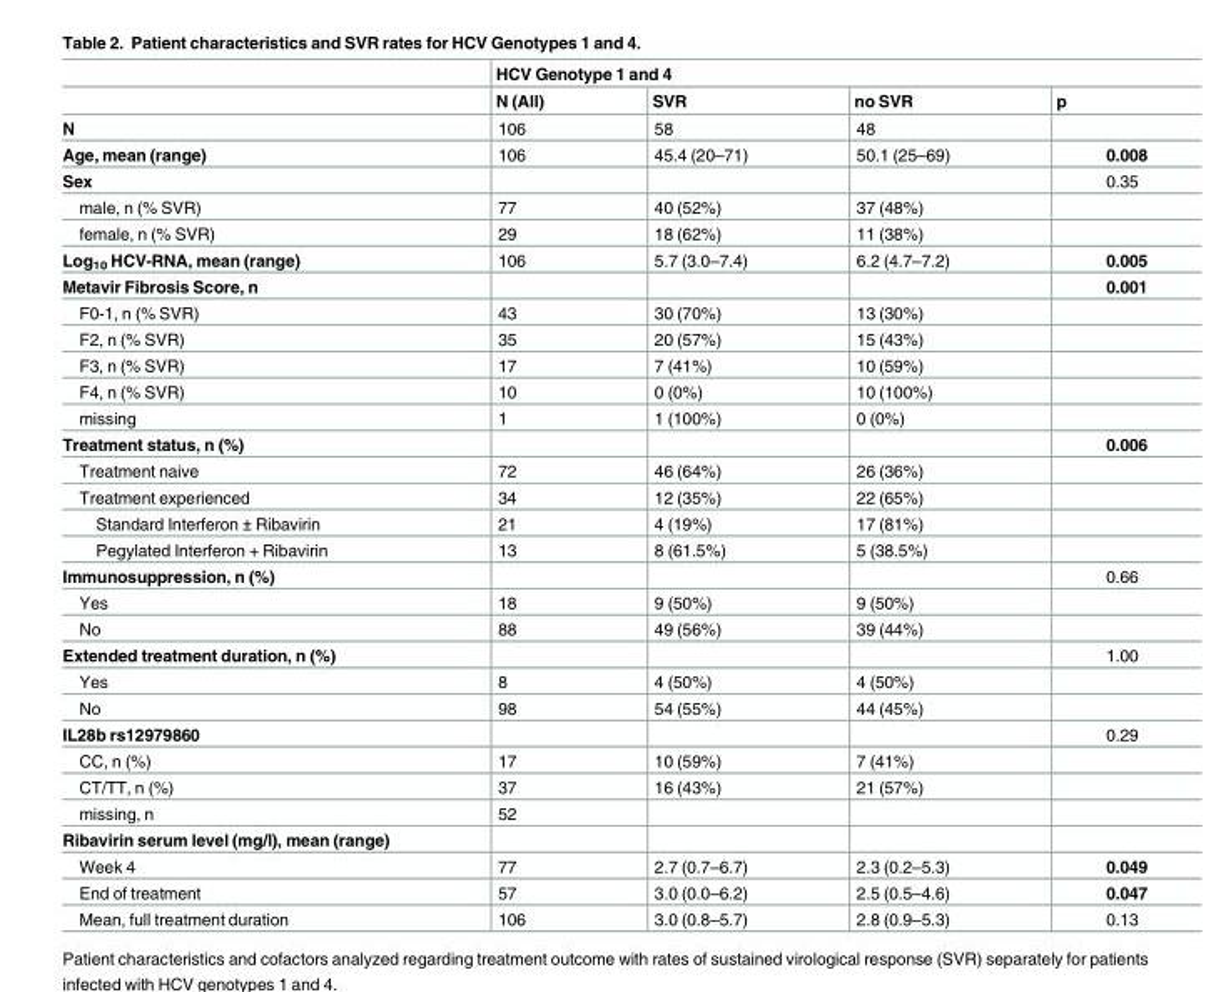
<table><thead><tr><td rowspan="2"></td><td colspan="4">HCV Genotype 1 and 4</td></tr><tr><td>N (All)</td><td>SVR</td><td>no SVR</td><td>p</td></tr></thead><tbody><tr><td>N</td><td>106</td><td>58</td><td>48</td><td></td></tr><tr><td>Age, mean (range)</td><td>106</td><td>45.4 (20–71)</td><td>50.1 (25–69)</td><td>0.008</td></tr><tr><td>Sex</td><td></td><td></td><td></td><td>0.35</td></tr><tr><td>male, n (% SVR)</td><td>77</td><td>40 (52%)</td><td>37 (48%)</td><td></td></tr><tr><td>female, n (% SVR)</td><td>29</td><td>18 (62%)</td><td>11 (38%)</td><td></td></tr><tr><td>Log<sub>10</sub> HCV-RNA, mean (range)</td><td>106</td><td>5.7 (3.0–7.4)</td><td>6.2 (4.7–7.2)</td><td>0.005</td></tr><tr><td>Metavir Fibrosis Score, n</td><td></td><td></td><td></td><td>0.001</td></tr><tr><td>F0-1, n (% SVR)</td><td>43</td><td>30 (70%)</td><td>13 (30%)</td><td></td></tr><tr><td>F2, n (% SVR)</td><td>35</td><td>20 (57%)</td><td>15 (43%)</td><td></td></tr><tr><td>F3, n (% SVR)</td><td>17</td><td>7 (41%)</td><td>10 (59%)</td><td></td></tr><tr><td>F4, n (% SVR)</td><td>10</td><td>0 (0%)</td><td>10 (100%)</td><td></td></tr><tr><td>missing</td><td>1</td><td>1 (100%)</td><td>0 (0%)</td><td></td></tr><tr><td>Treatment status, n (%)</td><td></td><td></td><td></td><td>0.006</td></tr><tr><td>Treatment naive</td><td>72</td><td>46 (64%)</td><td>26 (36%)</td><td></td></tr><tr><td>Treatment experienced</td><td>34</td><td>12 (35%)</td><td>22 (65%)</td><td></td></tr><tr><td>Standard Interferon ± Ribavirin</td><td>21</td><td>4 (19%)</td><td>17 (81%)</td><td></td></tr><tr><td>Pegylated Interferon + Ribavirin</td><td>13</td><td>8 (61.5%)</td><td>5 (38.5%)</td><td></td></tr><tr><td>Immunosuppression, n (%)</td><td></td><td></td><td></td><td>0.66</td></tr><tr><td>Yes</td><td>18</td><td>9 (50%)</td><td>9 (50%)</td><td></td></tr><tr><td>No</td><td>88</td><td>49 (56%)</td><td>39 (44%)</td><td></td></tr><tr><td>Extended treatment duration, n (%)</td><td></td><td></td><td></td><td>1.00</td></tr><tr><td>Yes</td><td>8</td><td>4 (50%)</td><td>4 (50%)</td><td></td></tr><tr><td>No</td><td>98</td><td>54 (55%)</td><td>44 (45%)</td><td></td></tr><tr><td>IL28b rs12979860</td><td></td><td></td><td></td><td>0.29</td></tr><tr><td>CC, n (%)</td><td>17</td><td>10 (59%)</td><td>7 (41%)</td><td></td></tr><tr><td>CT/TT, n (%)</td><td>37</td><td>16 (43%)</td><td>21 (57%)</td><td></td></tr><tr><td>missing, n</td><td>52</td><td></td><td></td><td></td></tr><tr><td colspan="5">Ribavirin serum level (mg/l), mean (range)</td></tr><tr><td>Week 4</td><td>77</td><td>2.7 (0.7–6.7)</td><td>2.3 (0.2–5.3)</td><td>0.049</td></tr><tr><td>End of treatment</td><td>57</td><td>3.0 (0.0–6.2)</td><td>2.5 (0.5–4.6)</td><td>0.047</td></tr><tr><td>Mean, full treatment duration</td><td>106</td><td>3.0 (0.8–5.7)</td><td>2.8 (0.9–5.3)</td><td>0.13</td></tr></tbody></table>